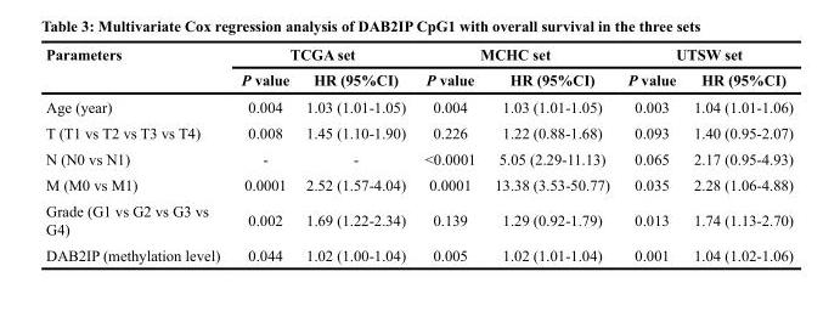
<table><thead><tr><td rowspan="2">Parameters</td><td colspan="2">TCGA set</td><td colspan="2">MCHC set</td><td colspan="2">UTSW set</td></tr><tr><td>P value</td><td>HR (95%CI)</td><td>P value</td><td>HR (95%CI)</td><td>P value</td><td>HR (95%CI)</td></tr></thead><tbody><tr><td>Age (year)</td><td>0.004</td><td>1.03 (1.01-1.05)</td><td>0.004</td><td>1.03 (1.01-1.05)</td><td>0.003</td><td>1.04 (1.01-1.06)</td></tr><tr><td>T (T1 vs T2 vs T3 vs T4)</td><td>0.008</td><td>1.45 (1.10-1.90)</td><td>0.226</td><td>1.22 (0.88-1.68)</td><td>0.093</td><td>1.40 (0.95-2.07)</td></tr><tr><td>N (N0 vs N1)</td><td>-</td><td>-</td><td>&lt;0.0001</td><td>5.05 (2.29-11.13)</td><td>0.065</td><td>2.17 (0.95-4.93)</td></tr><tr><td>M (M0 vs M1)</td><td>0.0001</td><td>2.52 (1.57-4.04)</td><td>0.0001</td><td>13.38 (3.53-50.77)</td><td>0.035</td><td>2.28 (1.06-4.88)</td></tr><tr><td>Grade (G1 vs G2 vs G3 vs G4)</td><td>0.002</td><td>1.69 (1.22-2.34)</td><td>0.139</td><td>1.29 (0.92-1.79)</td><td>0.013</td><td>1.74 (1.13-2.70)</td></tr><tr><td>DAB2IP (methylation level)</td><td>0.044</td><td>1.02 (1.00-1.04)</td><td>0.005</td><td>1.02 (1.01-1.04)</td><td>0.001</td><td>1.04 (1.02-1.06)</td></tr></tbody></table>